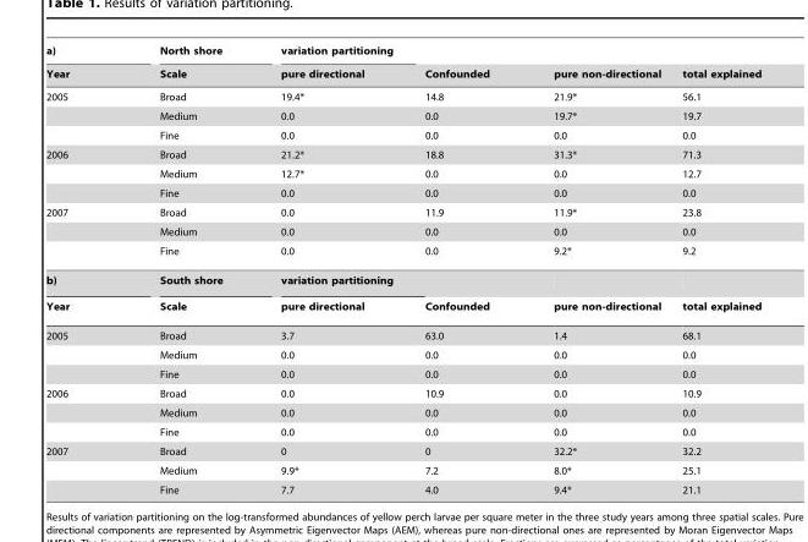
<table><thead><tr><td rowspan="2">a) Year</td><td rowspan="2">North shore Scale</td><td rowspan="2">variation partitioning pure directional</td><td rowspan="2">Confounded</td><td rowspan="2">pure non-directional</td><td rowspan="2">total explained</td></tr><tr></tr></thead><tbody><tr><td rowspan="3">2005</td><td>Broad</td><td>19.4*</td><td>14.8</td><td>21.9*</td><td>56.1</td></tr><tr><td>Medium</td><td>0.0</td><td>0.0</td><td>19.7*</td><td>19.7</td></tr><tr><td>Fine</td><td>0.0</td><td>0.0</td><td>0.0</td><td>0.0</td></tr><tr><td rowspan="3">2006</td><td>Broad</td><td>21.2*</td><td>18.8</td><td>31.3*</td><td>71.3</td></tr><tr><td>Medium</td><td>12.7*</td><td>0.0</td><td>0.0</td><td>12.7</td></tr><tr><td>Fine</td><td>0.0</td><td>0.0</td><td>0.0</td><td>0.0</td></tr><tr><td rowspan="3">2007</td><td>Broad</td><td>0.0</td><td>11.9</td><td>11.9*</td><td>23.8</td></tr><tr><td>Medium</td><td>0.0</td><td>0.0</td><td>0.0</td><td>0.0</td></tr><tr><td>Fine</td><td>0.0</td><td>0.0</td><td>9.2*</td><td>9.2</td></tr><tr><td>b)</td><td>South shore</td><td>variation partitioning</td><td></td><td></td><td></td></tr><tr><td>Year</td><td>Scale</td><td>pure directional</td><td>Confounded</td><td>pure non-directional</td><td>total explained</td></tr><tr><td rowspan="3">2005</td><td>Broad</td><td>3.7</td><td>63.0</td><td>1.4</td><td>68.1</td></tr><tr><td>Medium</td><td>0.0</td><td>0.0</td><td>0.0</td><td>0.0</td></tr><tr><td>Fine</td><td>0.0</td><td>0.0</td><td>0.0</td><td>0.0</td></tr><tr><td rowspan="3">2006</td><td>Broad</td><td>0.0</td><td>10.9</td><td>0.0</td><td>10.9</td></tr><tr><td>Medium</td><td>0.0</td><td>0.0</td><td>0.0</td><td>0.0</td></tr><tr><td>Fine</td><td>0.0</td><td>0.0</td><td>0.0</td><td>0.0</td></tr><tr><td rowspan="3">2007</td><td>Broad</td><td>0</td><td>0</td><td>32.2*</td><td>32.2</td></tr><tr><td>Medium</td><td>9.9*</td><td>7.2</td><td>8.0*</td><td>25.1</td></tr><tr><td>Fine</td><td>7.7</td><td>4.0</td><td>9.4*</td><td>21.1</td></tr></tbody></table>